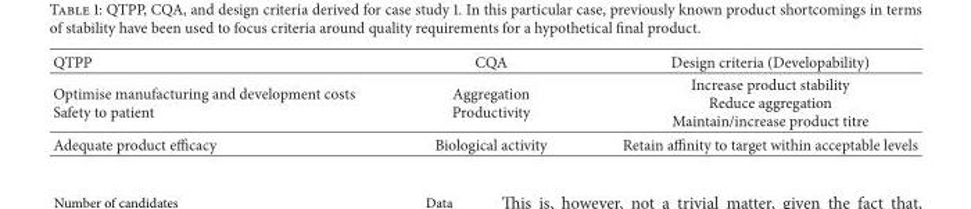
<table><thead><tr><td>QTPP</td><td>CQA</td><td>Design criteria (Developability)</td></tr></thead><tbody><tr><td>Optimise manufacturing and development costs Safety to patient</td><td>Aggregation Productivity</td><td>Increase product stability Reduce aggregation Maintain/increase product titre</td></tr><tr><td>Adequate product efficacy</td><td>Biological activity</td><td>Retain affinity to target within acceptable levels</td></tr></tbody></table>